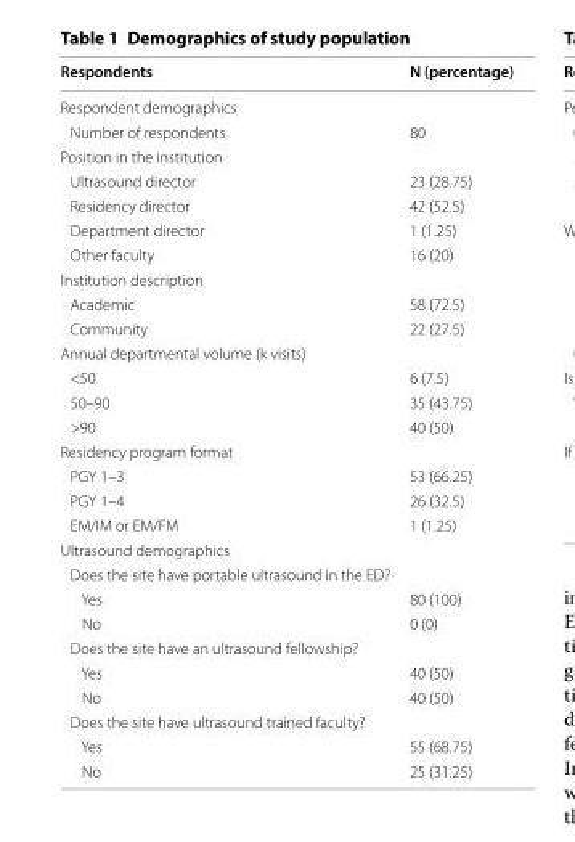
<table><thead><tr><td>Respondents</td><td>N (percentage)</td></tr></thead><tbody><tr><td colspan="2">Respondent demographics</td></tr><tr><td>Number of respondents</td><td>80</td></tr><tr><td colspan="2">Position in the institution</td></tr><tr><td>Ultrasound director</td><td>23 (28.75)</td></tr><tr><td>Residency director</td><td>42 (52.5)</td></tr><tr><td>Department director</td><td>1 (1.25)</td></tr><tr><td>Other faculty</td><td>16 (20)</td></tr><tr><td colspan="2">Institution description</td></tr><tr><td>Academic</td><td>58 (72.5)</td></tr><tr><td>Community</td><td>22 (27.5)</td></tr><tr><td colspan="2">Annual departmental volume (k visits)</td></tr><tr><td>&lt;50</td><td>6 (7.5)</td></tr><tr><td>50–90</td><td>35 (43.75)</td></tr><tr><td>&gt;90</td><td>40 (50)</td></tr><tr><td colspan="2">Residency program format</td></tr><tr><td>PGY 1–3</td><td>53 (66.25)</td></tr><tr><td>PGY 1–4</td><td>26 (32.5)</td></tr><tr><td>EM/IM or EM/FM</td><td>1 (1.25)</td></tr><tr><td colspan="2">Ultrasound demographics</td></tr><tr><td colspan="2">Does the site have portable ultrasound in the ED?</td></tr><tr><td>Yes</td><td>80 (100)</td></tr><tr><td>No</td><td>0 (0)</td></tr><tr><td colspan="2">Does the site have an ultrasound fellowship?</td></tr><tr><td>Yes</td><td>40 (50)</td></tr><tr><td>No</td><td>40 (50)</td></tr><tr><td colspan="2">Does the site have ultrasound trained faculty?</td></tr><tr><td>Yes</td><td>55 (68.75)</td></tr><tr><td>No</td><td>25 (31.25)</td></tr></tbody></table>